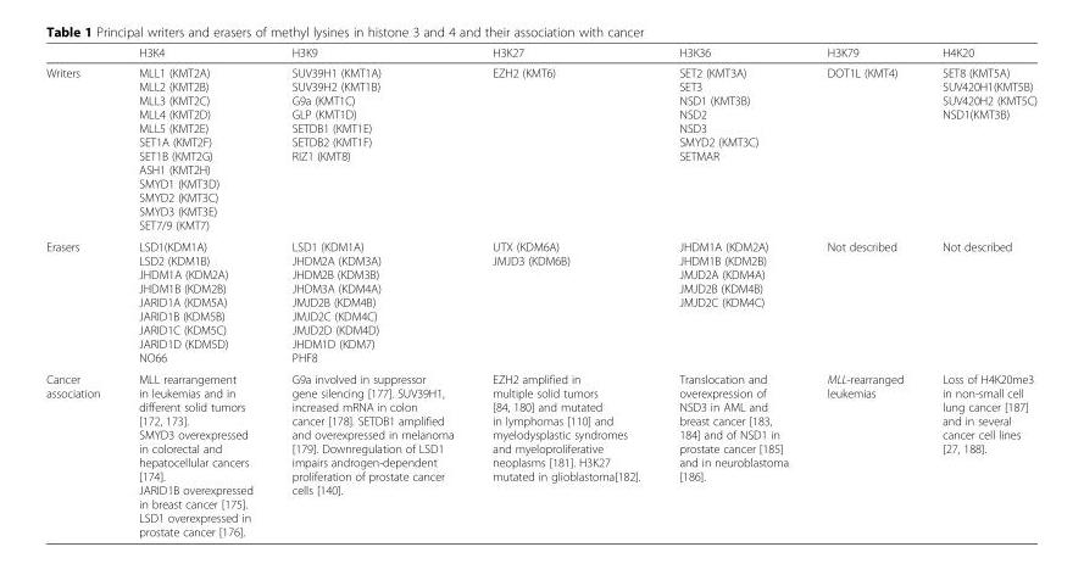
<table><thead><tr><td></td><td>H3K4</td><td>H3K9</td><td>H3K27</td><td>H3K36</td><td>H3K79</td><td>H4K20</td></tr></thead><tbody><tr><td>Writers</td><td>MLL1 (KMT2A) MLL2 (KMT2B) MLL3 (KMT2C) MLL4 (KMT2D) MLL5 (KMT2E) SET1A (KMT2F) SET1B (KMT2G) ASH1 (KMT2H) SMYD1 (KMT3D) SMYD2 (KMT3C) SMYD3 (KMT3E) SET7/9 (KMT7)</td><td>SUV39H1 (KMT1A) SUV39H2 (KMT1B) G9a (KMT1C) GLP (KMT1D) SETDB1 (KMT1E) SETDB2 (KMT1F) RIZ1 (KMT8)</td><td>EZH2 (KMT6)</td><td>SET2 (KMT3A) SET3 NSD1 (KMT3B) NSD2 NSD3 SMYD2 (KMT3C) SETMAR</td><td>DOT1L (KMT4)</td><td>SET8 (KMT5A) SUV420H1(KMT5B) SUV420H2 (KMT5C) NSD1(KMT3B)</td></tr><tr><td>Erasers</td><td>LSD1(KDM1A) LSD2 (KDM1B) JHDM1A (KDM2A) JHDM1B (KDM2B) JARID1A (KDM5A) JARID1B (KDM5B) JARID1C (KDM5C) JARID1D (KDM5D) NO66</td><td>LSD1 (KDM1A) JHDM2A (KDM3A) JHDM2B (KDM3B) JHDM3A (KDM4A) JMJD2B (KDM4B) JMJD2C (KDM4C) JMJD2D (KDM4D) JHDM1D (KDM7) PHF8</td><td>UTX (KDM6A) JMJD3 (KDM6B)</td><td>JHDM1A (KDM2A) JHDM1B (KDM2B) JMJD2A (KDM4A) JMJD2B (KDM4B) JMJD2C (KDM4C)</td><td>Not described</td><td>Not described</td></tr><tr><td>Cancer association</td><td>MLL rearrangement in leukemias and in different solid tumors [172, 173]. SMYD3 overexpressed in colorectal and hepatocellular cancers [174]. JARID1B overexpressed in breast cancer [175]. LSD1 overexpressed in prostate cancer [176].</td><td>G9a involved in suppressor gene silencing [177]. SUV39H1, increased mRNA in colon cancer [178]. SETDB1 amplified and overexpressed in melanoma [179]. Downregulation of LSD1 impairs androgen-dependent proliferation of prostate cancer cells [140].</td><td>EZH2 amplified in multiple solid tumors [84, 180] and mutated in lymphomas [110] and myelodysplastic syndromes and myeloproliferative neoplasms [181]. H3K27 mutated in glioblastoma[182].</td><td>Translocation and overexpression of NSD3 in AML and breast cancer [183, 184] and of NSD1 in prostate cancer [185] and in neuroblastoma [186].</td><td>MLL-rearranged leukemias</td><td>Loss of H4K20me3 in non-small cell lung cancer [187] and in several cancer cell lines [27, 188].</td></tr></tbody></table>